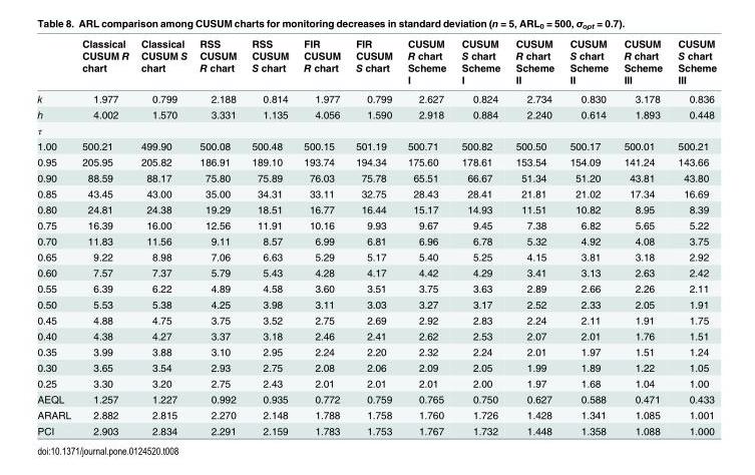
<table><thead><tr><td></td><td>Classical CUSUM R chart</td><td>Classical CUSUM S chart</td><td>RSS CUSUM R chart</td><td>RSS CUSUM S chart</td><td>FIR CUSUM R chart</td><td>FIR CUSUM S chart</td><td>CUSUM R chart Scheme I</td><td>CUSUM S chart Scheme I</td><td>CUSUM R chart Scheme II</td><td>CUSUM S chart Scheme II</td><td>CUSUM R chart Scheme III</td><td>CUSUM S chart Scheme III</td></tr></thead><tbody><tr><td>k</td><td>1.977</td><td>0.799</td><td>2.188</td><td>0.814</td><td>1.977</td><td>0.799</td><td>2.627</td><td>0.824</td><td>2.734</td><td>0.830</td><td>3.178</td><td>0.836</td></tr><tr><td>h</td><td>4.002</td><td>1.570</td><td>3.331</td><td>1.135</td><td>4.056</td><td>1.590</td><td>2.918</td><td>0.884</td><td>2.240</td><td>0.614</td><td>1.893</td><td>0.448</td></tr><tr><td colspan="13">τ</td></tr><tr><td>1.00</td><td>500.21</td><td>499.90</td><td>500.08</td><td>500.48</td><td>500.15</td><td>501.19</td><td>500.71</td><td>500.82</td><td>500.50</td><td>500.17</td><td>500.01</td><td>500.21</td></tr><tr><td>0.95</td><td>205.95</td><td>205.82</td><td>186.91</td><td>189.10</td><td>193.74</td><td>194.34</td><td>175.60</td><td>178.61</td><td>153.54</td><td>154.09</td><td>141.24</td><td>143.66</td></tr><tr><td>0.90</td><td>88.59</td><td>88.17</td><td>75.80</td><td>75.89</td><td>76.03</td><td>75.78</td><td>65.51</td><td>66.67</td><td>51.34</td><td>51.20</td><td>43.81</td><td>43.80</td></tr><tr><td>0.85</td><td>43.45</td><td>43.00</td><td>35.00</td><td>34.31</td><td>33.11</td><td>32.75</td><td>28.43</td><td>28.41</td><td>21.81</td><td>21.02</td><td>17.34</td><td>16.69</td></tr><tr><td>0.80</td><td>24.81</td><td>24.38</td><td>19.29</td><td>18.51</td><td>16.77</td><td>16.44</td><td>15.17</td><td>14.93</td><td>11.51</td><td>10.82</td><td>8.95</td><td>8.39</td></tr><tr><td>0.75</td><td>16.39</td><td>16.00</td><td>12.56</td><td>11.91</td><td>10.16</td><td>9.93</td><td>9.67</td><td>9.45</td><td>7.38</td><td>6.82</td><td>5.65</td><td>5.22</td></tr><tr><td>0.70</td><td>11.83</td><td>11.56</td><td>9.11</td><td>8.57</td><td>6.99</td><td>6.81</td><td>6.96</td><td>6.78</td><td>5.32</td><td>4.92</td><td>4.08</td><td>3.75</td></tr><tr><td>0.65</td><td>9.22</td><td>8.98</td><td>7.06</td><td>6.63</td><td>5.29</td><td>5.17</td><td>5.40</td><td>5.25</td><td>4.15</td><td>3.81</td><td>3.18</td><td>2.92</td></tr><tr><td>0.60</td><td>7.57</td><td>7.37</td><td>5.79</td><td>5.43</td><td>4.28</td><td>4.17</td><td>4.42</td><td>4.29</td><td>3.41</td><td>3.13</td><td>2.63</td><td>2.42</td></tr><tr><td>0.55</td><td>6.39</td><td>6.22</td><td>4.89</td><td>4.58</td><td>3.60</td><td>3.51</td><td>3.75</td><td>3.63</td><td>2.89</td><td>2.66</td><td>2.26</td><td>2.11</td></tr><tr><td>0.50</td><td>5.53</td><td>5.38</td><td>4.25</td><td>3.98</td><td>3.11</td><td>3.03</td><td>3.27</td><td>3.17</td><td>2.52</td><td>2.33</td><td>2.05</td><td>1.91</td></tr><tr><td>0.45</td><td>4.88</td><td>4.75</td><td>3.75</td><td>3.52</td><td>2.75</td><td>2.69</td><td>2.92</td><td>2.83</td><td>2.24</td><td>2.11</td><td>1.91</td><td>1.75</td></tr><tr><td>0.40</td><td>4.38</td><td>4.27</td><td>3.37</td><td>3.18</td><td>2.46</td><td>2.41</td><td>2.62</td><td>2.53</td><td>2.07</td><td>2.01</td><td>1.76</td><td>1.51</td></tr><tr><td>0.35</td><td>3.99</td><td>3.88</td><td>3.10</td><td>2.95</td><td>2.24</td><td>2.20</td><td>2.32</td><td>2.24</td><td>2.01</td><td>1.97</td><td>1.51</td><td>1.24</td></tr><tr><td>0.30</td><td>3.65</td><td>3.54</td><td>2.93</td><td>2.75</td><td>2.08</td><td>2.06</td><td>2.09</td><td>2.05</td><td>1.99</td><td>1.89</td><td>1.22</td><td>1.05</td></tr><tr><td>0.25</td><td>3.30</td><td>3.20</td><td>2.75</td><td>2.43</td><td>2.01</td><td>2.01</td><td>2.01</td><td>2.00</td><td>1.97</td><td>1.68</td><td>1.04</td><td>1.00</td></tr><tr><td>AEQL</td><td>1.257</td><td>1.227</td><td>0.992</td><td>0.935</td><td>0.772</td><td>0.759</td><td>0.765</td><td>0.750</td><td>0.627</td><td>0.588</td><td>0.471</td><td>0.433</td></tr><tr><td>ARARL</td><td>2.882</td><td>2.815</td><td>2.270</td><td>2.148</td><td>1.788</td><td>1.758</td><td>1.760</td><td>1.726</td><td>1.428</td><td>1.341</td><td>1.085</td><td>1.001</td></tr><tr><td>PCI</td><td>2.903</td><td>2.834</td><td>2.291</td><td>2.159</td><td>1.783</td><td>1.753</td><td>1.767</td><td>1.732</td><td>1.448</td><td>1.358</td><td>1.088</td><td>1.000</td></tr></tbody></table>